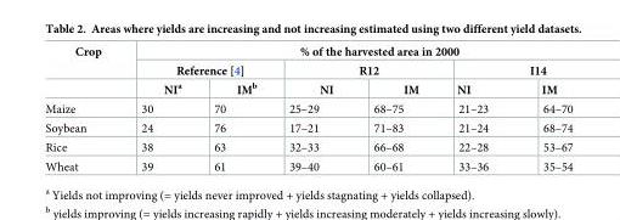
<table><thead><tr><td rowspan="3">Crop</td><td colspan="6">% of the harvested area in 2000</td></tr><tr><td colspan="2">Reference [4]</td><td colspan="2">R12</td><td colspan="2">I14</td></tr><tr><td>NI<sup>a</sup></td><td>IM<sup>b</sup></td><td>NI</td><td>IM</td><td>NI</td><td>IM</td></tr></thead><tbody><tr><td>Maize</td><td>30</td><td>70</td><td>25–29</td><td>68–75</td><td>21–23</td><td>64–70</td></tr><tr><td>Soybean</td><td>24</td><td>76</td><td>17–21</td><td>71–83</td><td>21–24</td><td>68–74</td></tr><tr><td>Rice</td><td>38</td><td>63</td><td>32–33</td><td>66–68</td><td>22–28</td><td>53–67</td></tr><tr><td>Wheat</td><td>39</td><td>61</td><td>39–40</td><td>60–61</td><td>33–36</td><td>35–54</td></tr></tbody></table>